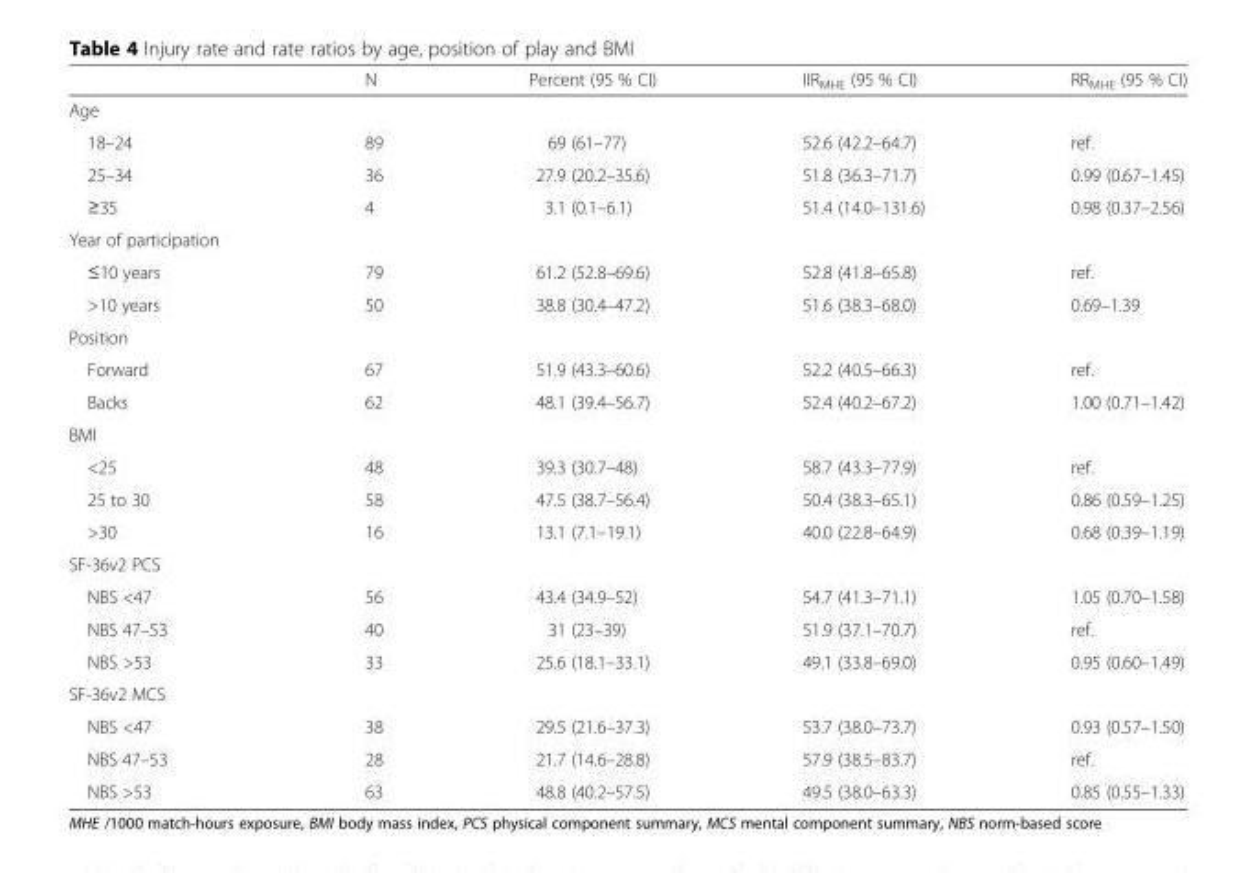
<table><thead><tr><td></td><td>N</td><td>Percent (95 % CI)</td><td>IIR<sub>MHE</sub> (95 % CI)</td><td>RR<sub>MHE</sub> (95 % CI)</td></tr></thead><tbody><tr><td colspan="5">Age</td></tr><tr><td>18–24</td><td>89</td><td>69 (61–77)</td><td>52.6 (42.2–64.7)</td><td>ref.</td></tr><tr><td>25–34</td><td>36</td><td>27.9 (20.2–35.6)</td><td>51.8 (36.3–71.7)</td><td>0.99 (0.67–1.45)</td></tr><tr><td>≥35</td><td>4</td><td>3.1 (0.1–6.1)</td><td>51.4 (14.0–131.6)</td><td>0.98 (0.37–2.56)</td></tr><tr><td colspan="5">Year of participation</td></tr><tr><td>≤10 years</td><td>79</td><td>61.2 (52.8–69.6)</td><td>52.8 (41.8–65.8)</td><td>ref.</td></tr><tr><td>&gt;10 years</td><td>50</td><td>38.8 (30.4–47.2)</td><td>51.6 (38.3–68.0)</td><td>0.69–1.39</td></tr><tr><td colspan="5">Position</td></tr><tr><td>Forward</td><td>67</td><td>51.9 (43.3–60.6)</td><td>52.2 (40.5–66.3)</td><td>ref.</td></tr><tr><td>Backs</td><td>62</td><td>48.1 (39.4–56.7)</td><td>52.4 (40.2–67.2)</td><td>1.00 (0.71–1.42)</td></tr><tr><td colspan="5">BMI</td></tr><tr><td>&lt;25</td><td>48</td><td>39.3 (30.7–48)</td><td>58.7 (43.3–77.9)</td><td>ref.</td></tr><tr><td>25 to 30</td><td>58</td><td>47.5 (38.7–56.4)</td><td>50.4 (38.3–65.1)</td><td>0.86 (0.59–1.25)</td></tr><tr><td>&gt;30</td><td>16</td><td>13.1 (7.1–19.1)</td><td>40.0 (22.8–64.9)</td><td>0.68 (0.39–1.19)</td></tr><tr><td colspan="5">SF-36v2 PCS</td></tr><tr><td>NBS &lt;47</td><td>56</td><td>43.4 (34.9–52)</td><td>54.7 (41.3–71.1)</td><td>1.05 (0.70–1.58)</td></tr><tr><td>NBS 47–53</td><td>40</td><td>31 (23–39)</td><td>51.9 (37.1–70.7)</td><td>ref.</td></tr><tr><td>NBS &gt;53</td><td>33</td><td>25.6 (18.1–33.1)</td><td>49.1 (33.8–69.0)</td><td>0.95 (0.60–1.49)</td></tr><tr><td colspan="5">SF-36v2 MCS</td></tr><tr><td>NBS &lt;47</td><td>38</td><td>29.5 (21.6–37.3)</td><td>53.7 (38.0–73.7)</td><td>0.93 (0.57–1.50)</td></tr><tr><td>NBS 47–53</td><td>28</td><td>21.7 (14.6–28.8)</td><td>57.9 (38.5–83.7)</td><td>ref.</td></tr><tr><td>NBS &gt;53</td><td>63</td><td>48.8 (40.2–57.5)</td><td>49.5 (38.0–63.3)</td><td>0.85 (0.55–1.33)</td></tr></tbody></table>